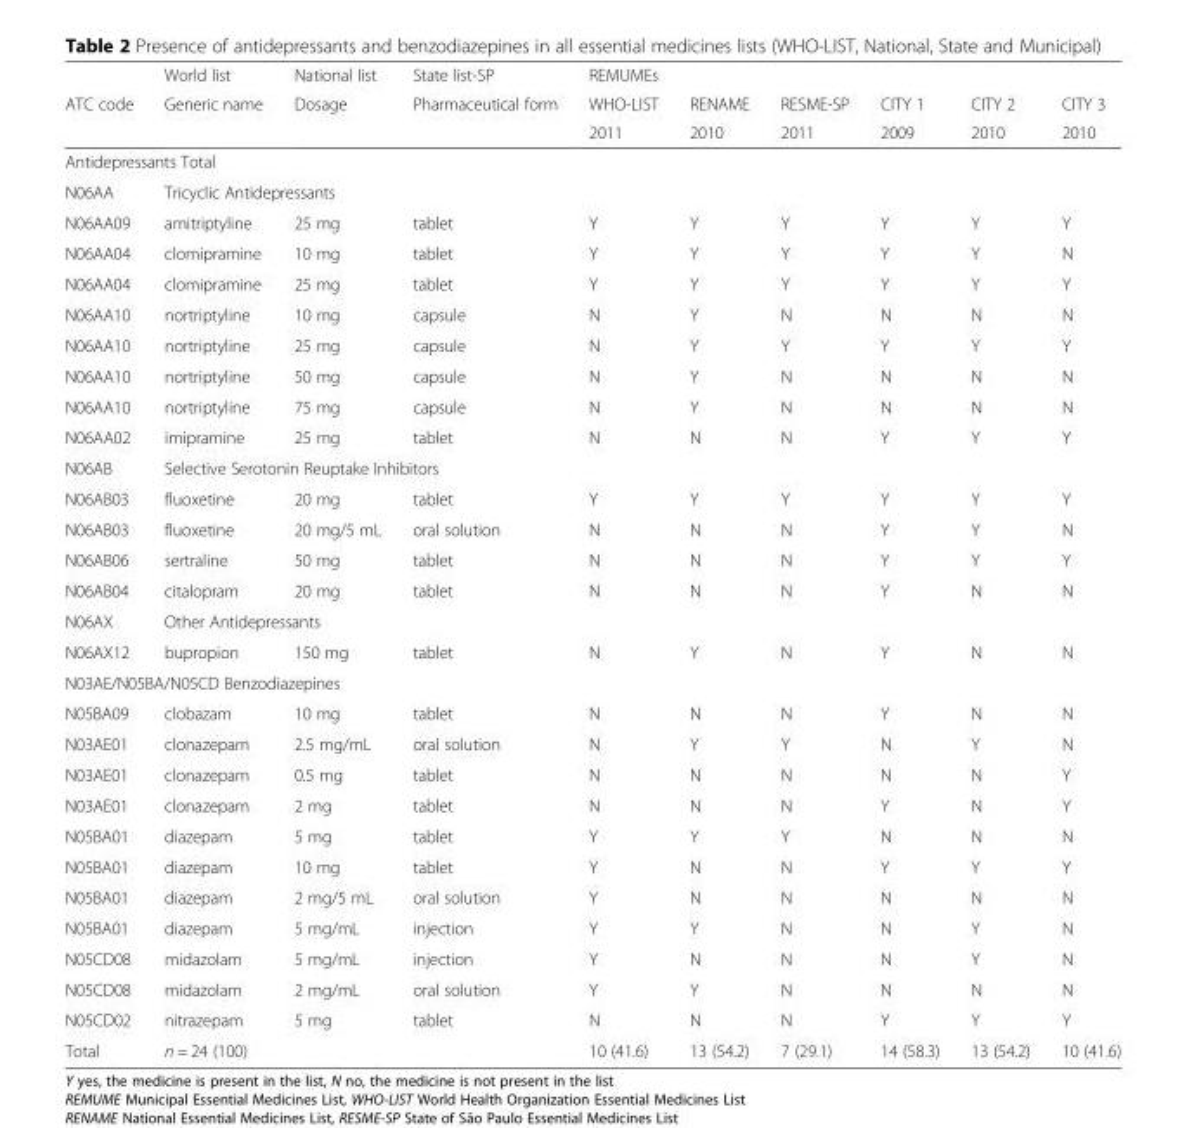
<table><thead><tr><td rowspan="3">ATC code</td><td rowspan="3">World list Generic name</td><td rowspan="3">National list Dosage</td><td rowspan="3">State list-SP Pharmaceutical form</td><td rowspan="3">REMUMEs WHO-LIST 2011</td><td rowspan="3">RENAME 2010</td><td rowspan="3">RESME-SP 2011</td><td rowspan="3">CITY 1 2009</td><td rowspan="3">CITY 2 2010</td><td rowspan="3">CITY 3 2010</td></tr><tr></tr><tr></tr></thead><tbody><tr><td colspan="10">Antidepressants Total</td></tr><tr><td>N06AA</td><td colspan="9">Tricyclic Antidepressants</td></tr><tr><td>N06AA09</td><td>amitriptyline</td><td>25 mg</td><td>tablet</td><td>Y</td><td>Y</td><td>Y</td><td>Y</td><td>Y</td><td>Y</td></tr><tr><td>N06AA04</td><td>clomipramine</td><td>10 mg</td><td>tablet</td><td>Y</td><td>Y</td><td>Y</td><td>Y</td><td>Y</td><td>N</td></tr><tr><td>N06AA04</td><td>clomipramine</td><td>25 mg</td><td>tablet</td><td>Y</td><td>Y</td><td>Y</td><td>Y</td><td>Y</td><td>Y</td></tr><tr><td>N06AA10</td><td>nortriptyline</td><td>10 mg</td><td>capsule</td><td>N</td><td>Y</td><td>N</td><td>N</td><td>N</td><td>N</td></tr><tr><td>N06AA10</td><td>nortriptyline</td><td>25 mg</td><td>capsule</td><td>N</td><td>Y</td><td>Y</td><td>Y</td><td>Y</td><td>Y</td></tr><tr><td>N06AA10</td><td>nortriptyline</td><td>50 mg</td><td>capsule</td><td>N</td><td>Y</td><td>N</td><td>N</td><td>N</td><td>N</td></tr><tr><td>N06AA10</td><td>nortriptyline</td><td>75 mg</td><td>capsule</td><td>N</td><td>Y</td><td>N</td><td>N</td><td>N</td><td>N</td></tr><tr><td>N06AA02</td><td>imipramine</td><td>25 mg</td><td>tablet</td><td>N</td><td>N</td><td>N</td><td>Y</td><td>Y</td><td>Y</td></tr><tr><td>N06AB</td><td colspan="9">Selective Serotonin Reuptake Inhibitors</td></tr><tr><td>N06AB03</td><td>fluoxetine</td><td>20 mg</td><td>tablet</td><td>Y</td><td>Y</td><td>Y</td><td>Y</td><td>Y</td><td>Y</td></tr><tr><td>N06AB03</td><td>fluoxetine</td><td>20 mg/5 mL</td><td>oral solution</td><td>N</td><td>N</td><td>N</td><td>Y</td><td>Y</td><td>N</td></tr><tr><td>N06AB06</td><td>sertraline</td><td>50 mg</td><td>tablet</td><td>N</td><td>N</td><td>N</td><td>Y</td><td>Y</td><td>Y</td></tr><tr><td>N06AB04</td><td>citalopram</td><td>20 mg</td><td>tablet</td><td>N</td><td>N</td><td>N</td><td>Y</td><td>N</td><td>N</td></tr><tr><td>N06AX</td><td colspan="9">Other Antidepressants</td></tr><tr><td>N06AX12</td><td>bupropion</td><td>150 mg</td><td>tablet</td><td>N</td><td>Y</td><td>N</td><td>Y</td><td>N</td><td>N</td></tr><tr><td colspan="10">N03AE/N05BA/N05CD Benzodiazepines</td></tr><tr><td>N05BA09</td><td>clobazam</td><td>10 mg</td><td>tablet</td><td>N</td><td>N</td><td>N</td><td>Y</td><td>N</td><td>N</td></tr><tr><td>N03AE01</td><td>clonazepam</td><td>2.5 mg/mL</td><td>oral solution</td><td>N</td><td>Y</td><td>Y</td><td>N</td><td>Y</td><td>N</td></tr><tr><td>N03AE01</td><td>clonazepam</td><td>0.5 mg</td><td>tablet</td><td>N</td><td>N</td><td>N</td><td>N</td><td>N</td><td>Y</td></tr><tr><td>N03AE01</td><td>clonazepam</td><td>2 mg</td><td>tablet</td><td>N</td><td>N</td><td>N</td><td>Y</td><td>N</td><td>Y</td></tr><tr><td>N05BA01</td><td>diazepam</td><td>5 mg</td><td>tablet</td><td>Y</td><td>Y</td><td>Y</td><td>N</td><td>N</td><td>N</td></tr><tr><td>N05BA01</td><td>diazepam</td><td>10 mg</td><td>tablet</td><td>Y</td><td>N</td><td>N</td><td>Y</td><td>Y</td><td>Y</td></tr><tr><td>N05BA01</td><td>diazepam</td><td>2 mg/5 mL</td><td>oral solution</td><td>Y</td><td>N</td><td>N</td><td>N</td><td>N</td><td>N</td></tr><tr><td>N05BA01</td><td>diazepam</td><td>5 mg/mL</td><td>injection</td><td>Y</td><td>Y</td><td>N</td><td>N</td><td>Y</td><td>N</td></tr><tr><td>N05CD08</td><td>midazolam</td><td>5 mg/mL</td><td>injection</td><td>Y</td><td>N</td><td>N</td><td>N</td><td>Y</td><td>N</td></tr><tr><td>N05CD08</td><td>midazolam</td><td>2 mg/mL</td><td>oral solution</td><td>Y</td><td>Y</td><td>N</td><td>N</td><td>N</td><td>N</td></tr><tr><td>N05CD02</td><td>nitrazepam</td><td>5 mg</td><td>tablet</td><td>N</td><td>N</td><td>N</td><td>Y</td><td>Y</td><td>Y</td></tr><tr><td>Total</td><td>n = 24 (100)</td><td></td><td></td><td>10 (41.6)</td><td>13 (54.2)</td><td>7 (29.1)</td><td>14 (58.3)</td><td>13 (54.2)</td><td>10 (41.6)</td></tr></tbody></table>